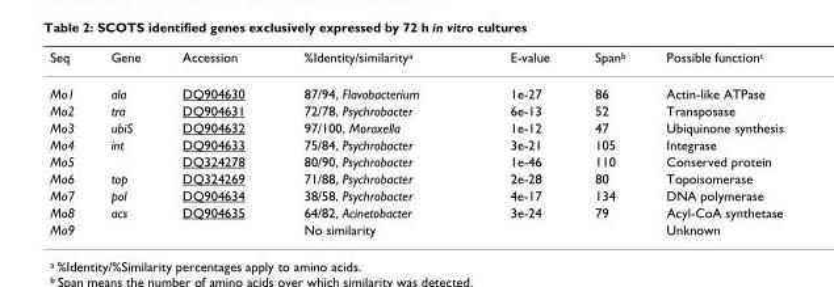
<table><thead><tr><td>Seq</td><td>Gene</td><td>Accession</td><td>%Identity/similarity<sup>a</sup></td><td>E-value</td><td>Span<sup>b</sup></td><td>Possible function<sup>c</sup></td></tr></thead><tbody><tr><td>Mo1</td><td>ala</td><td>DQ904630</td><td>87/94, Flavobacterium</td><td>1e-27</td><td>86</td><td>Actin-like ATPase</td></tr><tr><td>Mo2</td><td>tra</td><td>DQ904631</td><td>72/78, Psychrobacter</td><td>6e-13</td><td>52</td><td>Transposase</td></tr><tr><td>Mo3</td><td>ubiS</td><td>DQ904632</td><td>97/100, Moraxella</td><td>1e-12</td><td>47</td><td>Ubiquinone synthesis</td></tr><tr><td>Mo4</td><td>int</td><td>DQ904633</td><td>75/84, Psychrobacter</td><td>3e-21</td><td>105</td><td>Integrase</td></tr><tr><td>Mo5</td><td></td><td>DQ324278</td><td>80/90, Psychrobacter</td><td>1e-46</td><td>110</td><td>Conserved protein</td></tr><tr><td>Mo6</td><td>top</td><td>DQ324269</td><td>71/88, Psychrobacter</td><td>2e-28</td><td>80</td><td>Topoisomerase</td></tr><tr><td>Mo7</td><td>pol</td><td>DQ904634</td><td>38/58, Psychrobacter</td><td>4e-17</td><td>134</td><td>DNA polymerase</td></tr><tr><td>Mo8</td><td>acs</td><td>DQ904635</td><td>64/82, Acinetobacter</td><td>3e-24</td><td>79</td><td>Acyl-CoA synthetase</td></tr><tr><td>Mo9</td><td></td><td></td><td>No similarity</td><td></td><td></td><td>Unknown</td></tr></tbody></table>